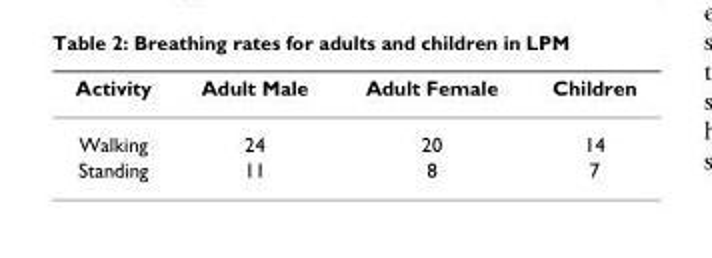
<table><thead><tr><td>Activity</td><td>Adult Male</td><td>Adult Female</td><td>Children</td></tr></thead><tbody><tr><td>Walking</td><td>24</td><td>20</td><td>14</td></tr><tr><td>Standing</td><td>11</td><td>8</td><td>7</td></tr></tbody></table>